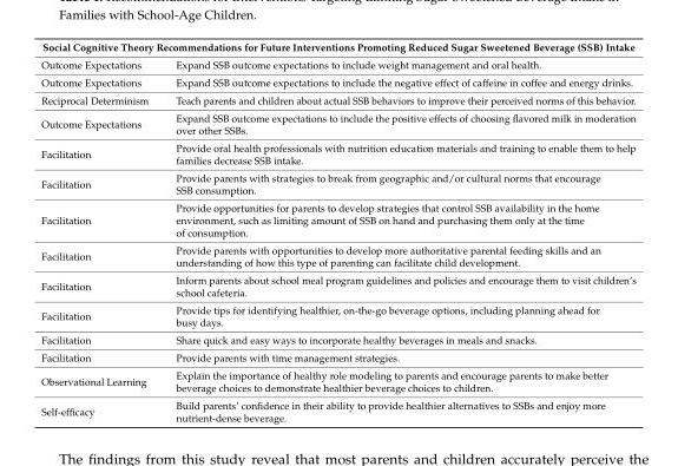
<table><thead><tr><td colspan="2">Social Cognitive Theory Recommendations for Future Interventions Promoting Reduced Sugar Sweetened Beverage (SSB) Intake</td></tr><tr><td>Outcome Expectations</td><td>Expand SSB outcome expectations to include weight management and oral health.</td></tr></thead><tbody><tr><td>Outcome Expectations</td><td>Expand SSB outcome expectations to include the negative effect of caffeine in coffee and energy drinks.</td></tr><tr><td>Reciprocal Determinism</td><td>Teach parents and children about actual SSB behaviors to improve their perceived norms of this behavior.</td></tr><tr><td>Outcome Expectations</td><td>Expand SSB outcome expectations to include the positive effects of choosing flavored milk in moderation over other SSBs.</td></tr><tr><td>Facilitation</td><td>Provide oral health professionals with nutrition education materials and training to enable them to help families decrease SSB intake.</td></tr><tr><td>Facilitation</td><td>Provide parents with strategies to break from geographic and/or cultural norms that encourage SSB consumption.</td></tr><tr><td>Facilitation</td><td>Provide opportunities for parents to develop strategies that control SSB availability in the home environment, such as limiting amount of SSB on hand and purchasing them only at the time of consumption.</td></tr><tr><td>Facilitation</td><td>Provide parents with opportunities to develop more authoritative parental feeding skills and an understanding of how this type of parenting can facilitate child development.</td></tr><tr><td>Facilitation</td><td>Inform parents about school meal program guidelines and policies and encourage them to visit children’s school cafeteria.</td></tr><tr><td>Facilitation</td><td>Provide tips for identifying healthier, on-the-go beverage options, including planning ahead for busy days.</td></tr><tr><td>Facilitation</td><td>Share quick and easy ways to incorporate healthy beverages in meals and snacks.</td></tr><tr><td>Facilitation</td><td>Provide parents with time management strategies.</td></tr><tr><td>Observational Learning</td><td>Explain the importance of healthy role modeling to parents and encourage parents to make better beverage choices to demonstrate healthier beverage choices to children.</td></tr><tr><td>Self-efficacy</td><td>Build parents’ confidence in their ability to provide healthier alternatives to SSBs and enjoy more nutrient-dense beverage.</td></tr></tbody></table>